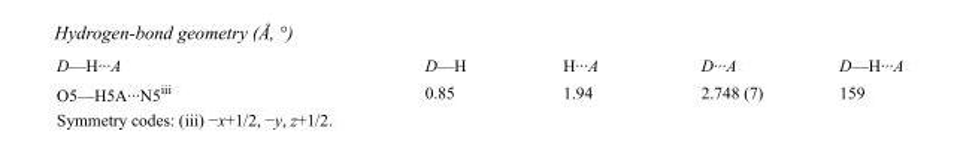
<table><tbody><tr><td>D—H···A</td><td>D—H</td><td>H···A</td><td>D···A</td><td>D—H···A</td></tr><tr><td>O5—H5A···N5<sup>iii</sup></td><td>0.85</td><td>1.94</td><td>2.748 (7)</td><td>159</td></tr></tbody></table>